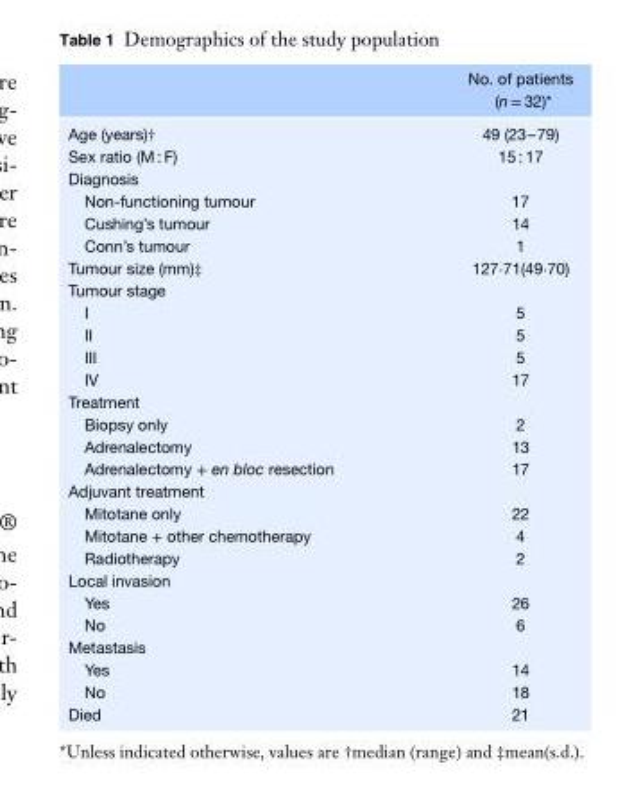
<table><thead><tr><td></td><td>No. of patients (n = 32)*</td></tr></thead><tbody><tr><td>Age (years)†</td><td>49 (23–79)</td></tr><tr><td>Sex ratio (M : F)</td><td>15 : 17</td></tr><tr><td colspan="2">Diagnosis</td></tr><tr><td>Non-functioning tumour</td><td>17</td></tr><tr><td>Cushing’s tumour</td><td>14</td></tr><tr><td>Conn’s tumour</td><td>1</td></tr><tr><td>Tumour size (mm)‡</td><td>127⋅71(49⋅70)</td></tr><tr><td colspan="2">Tumour stage</td></tr><tr><td>I</td><td>5</td></tr><tr><td>II</td><td>5</td></tr><tr><td>III</td><td>5</td></tr><tr><td>IV</td><td>17</td></tr><tr><td colspan="2">Treatment</td></tr><tr><td>Biopsy only</td><td>2</td></tr><tr><td>Adrenalectomy</td><td>13</td></tr><tr><td>Adrenalectomy + en bloc resection</td><td>17</td></tr><tr><td colspan="2">Adjuvant treatment</td></tr><tr><td>Mitotane only</td><td>22</td></tr><tr><td>Mitotane + other chemotherapy</td><td>4</td></tr><tr><td>Radiotherapy</td><td>2</td></tr><tr><td colspan="2">Local invasion</td></tr><tr><td>Yes</td><td>26</td></tr><tr><td>No</td><td>6</td></tr><tr><td colspan="2">Metastasis</td></tr><tr><td>Yes</td><td>14</td></tr><tr><td>No</td><td>18</td></tr><tr><td>Died</td><td>21</td></tr></tbody></table>